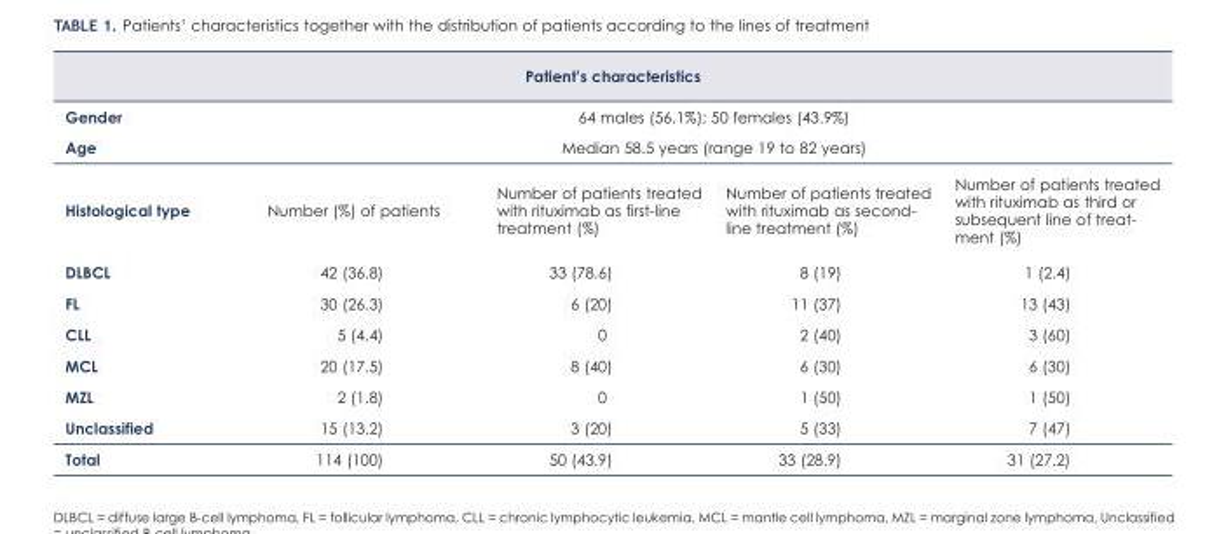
<table><thead><tr><td colspan="5">Patient’s characteristics</td></tr><tr><td rowspan="3">Gender Age Histological type</td><td rowspan="2" colspan="4">64 males (56.1%); 50 females (43.9%) Median 58.5 years (range 19 to 82 years)</td></tr><tr></tr><tr><td>Number (%) of patients</td><td>Number of patients treated with rituximab as first-line treatment (%)</td><td>Number of patients treated with rituximab as second- line treatment (%)</td><td>Number of patients treated with rituximab as third or subsequent line of treat- ment (%)</td></tr></thead><tbody><tr><td>DLBCL</td><td>42 (36.8)</td><td>33 (78.6)</td><td>8 (19)</td><td>1 (2.4)</td></tr><tr><td>FL</td><td>30 (26.3)</td><td>6 (20)</td><td>11 (37)</td><td>13 (43)</td></tr><tr><td>CLL</td><td>5 (4.4)</td><td>0</td><td>2 (40)</td><td>3 (60)</td></tr><tr><td>MCL</td><td>20 (17.5)</td><td>8 (40)</td><td>6 (30)</td><td>6 (30)</td></tr><tr><td>MZL</td><td>2 (1.8)</td><td>0</td><td>1 (50)</td><td>1 (50)</td></tr><tr><td>Unclassified</td><td>15 (13.2)</td><td>3 (20)</td><td>5 (33)</td><td>7 (47)</td></tr><tr><td>Total</td><td>114 (100)</td><td>50 (43.9)</td><td>33 (28.9)</td><td>31 (27.2)</td></tr></tbody></table>